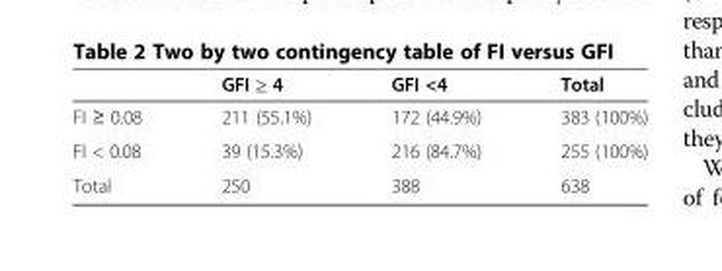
<table><thead><tr><td></td><td>GFI ≥ 4</td><td>GFI &lt;4</td><td>Total</td></tr></thead><tbody><tr><td>FI ≥ 0.08</td><td>211 (55.1%)</td><td>172 (44.9%)</td><td>383 (100%)</td></tr><tr><td>FI &lt; 0.08</td><td>39 (15.3%)</td><td>216 (84.7%)</td><td>255 (100%)</td></tr><tr><td>Total</td><td>250</td><td>388</td><td>638</td></tr></tbody></table>